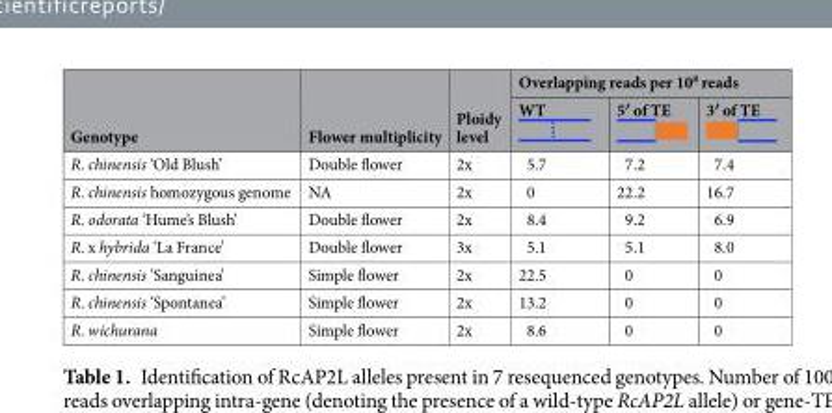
<table><thead><tr><td rowspan="2">Genotype</td><td rowspan="2">Flower multiplicity</td><td rowspan="2">Ploidy level</td><td colspan="3">Overlapping reads per 10<sup>8</sup> reads</td></tr><tr><td>WT</td><td>5′ of TE</td><td>3′ of TE</td></tr></thead><tbody><tr><td>R. chinensis ‘Old Blush’</td><td>Double flower</td><td>2x</td><td>5.7</td><td>7.2</td><td>7.4</td></tr><tr><td>R. chinensis homozygous genome</td><td>NA</td><td>2x</td><td>0</td><td>22.2</td><td>16.7</td></tr><tr><td>R. odorata ‘Hume’s Blush’</td><td>Double flower</td><td>2x</td><td>8.4</td><td>9.2</td><td>6.9</td></tr><tr><td>R. x hybrida ‘La France’</td><td>Double flower</td><td>3x</td><td>5.1</td><td>5.1</td><td>8.0</td></tr><tr><td>R. chinensis ‘Sanguinea’</td><td>Simple flower</td><td>2x</td><td>22.5</td><td>0</td><td>0</td></tr><tr><td>R. chinensis ‘Spontanea’</td><td>Simple flower</td><td>2x</td><td>13.2</td><td>0</td><td>0</td></tr><tr><td>R. wichurana</td><td>Simple flower</td><td>2x</td><td>8.6</td><td>0</td><td>0</td></tr></tbody></table>